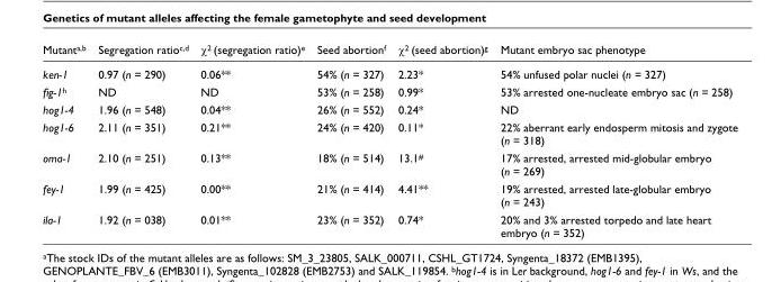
<table><thead><tr><td>Mutant<sup>a,b</sup></td><td>Segregation ratio<sup>c,d</sup></td><td>χ<sup>2</sup> (segregation ratio)<sup>e</sup></td><td>Seed abortion<sup>f</sup></td><td>χ<sup>2</sup> (seed abortion)<sup>g</sup></td><td>Mutant embryo sac phenotype</td></tr></thead><tbody><tr><td>ken-1</td><td>0.97 (n = 290)</td><td>0.06**</td><td>54% (n = 327)</td><td>2.23*</td><td>54% unfused polar nuclei (n = 327)</td></tr><tr><td>fig-1<sup>h</sup></td><td>ND</td><td>ND</td><td>53% (n = 258)</td><td>0.99*</td><td>53% arrested one-nucleate embryo sac (n = 258)</td></tr><tr><td>hog1-4</td><td>1.96 (n = 548)</td><td>0.04**</td><td>26% (n = 552)</td><td>0.24*</td><td>ND</td></tr><tr><td>hog1-6</td><td>2.11 (n = 351)</td><td>0.21**</td><td>24% (n = 420)</td><td>0.11*</td><td>22% aberrant early endosperm mitosis and zygote (n = 318)</td></tr><tr><td>oma-1</td><td>2.10 (n = 251)</td><td>0.13**</td><td>18% (n = 514)</td><td>13.1<sup>#</sup></td><td>17% arrested, arrested mid-globular embryo (n = 269)</td></tr><tr><td>fey-1</td><td>1.99 (n = 425)</td><td>0.00**</td><td>21% (n = 414)</td><td>4.41**</td><td>19% arrested, arrested late-globular embryo (n = 243)</td></tr><tr><td>ila-1</td><td>1.92 (n = 038)</td><td>0.01**</td><td>23% (n = 352)</td><td>0.74*</td><td>20% and 3% arrested torpedo and late heart embryo (n = 352)</td></tr></tbody></table>